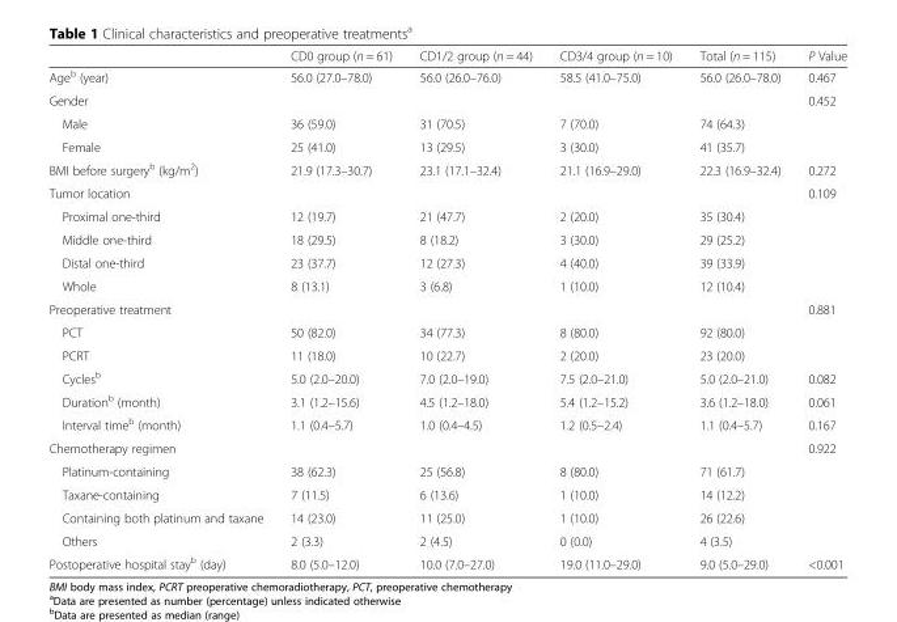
<table><thead><tr><td></td><td>CD0 group (n = 61)</td><td>CD1/2 group (n = 44)</td><td>CD3/4 group (n = 10)</td><td>Total (n = 115)</td><td>P Value</td></tr></thead><tbody><tr><td>Age<sup>b</sup> (year)</td><td>56.0 (27.0–78.0)</td><td>56.0 (26.0–76.0)</td><td>58.5 (41.0–75.0)</td><td>56.0 (26.0–78.0)</td><td>0.467</td></tr><tr><td>Gender</td><td></td><td></td><td></td><td></td><td>0.452</td></tr><tr><td>Male</td><td>36 (59.0)</td><td>31 (70.5)</td><td>7 (70.0)</td><td>74 (64.3)</td><td></td></tr><tr><td>Female</td><td>25 (41.0)</td><td>13 (29.5)</td><td>3 (30.0)</td><td>41 (35.7)</td><td></td></tr><tr><td>BMI before surgery<sup>b</sup> (kg/m<sup>2</sup>)</td><td>21.9 (17.3–30.7)</td><td>23.1 (17.1–32.4)</td><td>21.1 (16.9–29.0)</td><td>22.3 (16.9–32.4)</td><td>0.272</td></tr><tr><td>Tumor location</td><td></td><td></td><td></td><td></td><td>0.109</td></tr><tr><td>Proximal one-third</td><td>12 (19.7)</td><td>21 (47.7)</td><td>2 (20.0)</td><td>35 (30.4)</td><td></td></tr><tr><td>Middle one-third</td><td>18 (29.5)</td><td>8 (18.2)</td><td>3 (30.0)</td><td>29 (25.2)</td><td></td></tr><tr><td>Distal one-third</td><td>23 (37.7)</td><td>12 (27.3)</td><td>4 (40.0)</td><td>39 (33.9)</td><td></td></tr><tr><td>Whole</td><td>8 (13.1)</td><td>3 (6.8)</td><td>1 (10.0)</td><td>12 (10.4)</td><td></td></tr><tr><td>Preoperative treatment</td><td></td><td></td><td></td><td></td><td>0.881</td></tr><tr><td>PCT</td><td>50 (82.0)</td><td>34 (77.3)</td><td>8 (80.0)</td><td>92 (80.0)</td><td></td></tr><tr><td>PCRT</td><td>11 (18.0)</td><td>10 (22.7)</td><td>2 (20.0)</td><td>23 (20.0)</td><td></td></tr><tr><td>Cycles<sup>b</sup></td><td>5.0 (2.0–20.0)</td><td>7.0 (2.0–19.0)</td><td>7.5 (2.0–21.0)</td><td>5.0 (2.0–21.0)</td><td>0.082</td></tr><tr><td>Duration<sup>b</sup> (month)</td><td>3.1 (1.2–15.6)</td><td>4.5 (1.2–18.0)</td><td>5.4 (1.2–15.2)</td><td>3.6 (1.2–18.0)</td><td>0.061</td></tr><tr><td>Interval time<sup>b</sup> (month)</td><td>1.1 (0.4–5.7)</td><td>1.0 (0.4–4.5)</td><td>1.2 (0.5–2.4)</td><td>1.1 (0.4–5.7)</td><td>0.167</td></tr><tr><td>Chemotherapy regimen</td><td></td><td></td><td></td><td></td><td>0.922</td></tr><tr><td>Platinum-containing</td><td>38 (62.3)</td><td>25 (56.8)</td><td>8 (80.0)</td><td>71 (61.7)</td><td></td></tr><tr><td>Taxane-containing</td><td>7 (11.5)</td><td>6 (13.6)</td><td>1 (10.0)</td><td>14 (12.2)</td><td></td></tr><tr><td>Containing both platinum and taxane</td><td>14 (23.0)</td><td>11 (25.0)</td><td>1 (10.0)</td><td>26 (22.6)</td><td></td></tr><tr><td>Others</td><td>2 (3.3)</td><td>2 (4.5)</td><td>0 (0.0)</td><td>4 (3.5)</td><td></td></tr><tr><td>Postoperative hospital stay<sup>b</sup> (day)</td><td>8.0 (5.0–12.0)</td><td>10.0 (7.0–27.0)</td><td>19.0 (11.0–29.0)</td><td>9.0 (5.0–29.0)</td><td>&lt;0.001</td></tr></tbody></table>